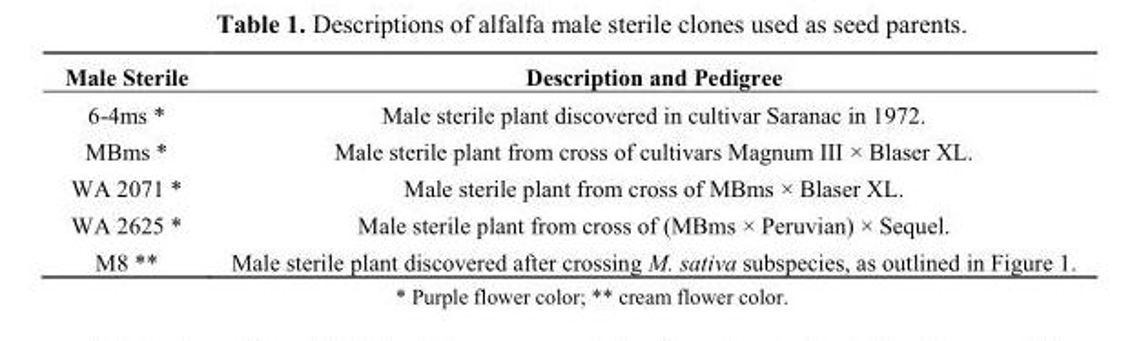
<table><thead><tr><td>Male Sterile</td><td>Description and Pedigree</td></tr></thead><tbody><tr><td>6-4ms *</td><td>Male sterile plant discovered in cultivar Saranac in 1972.</td></tr><tr><td>MBms *</td><td>Male sterile plant from cross of cultivars Magnum III × Blaser XL.</td></tr><tr><td>WA 2071 *</td><td>Male sterile plant from cross of MBms × Blaser XL.</td></tr><tr><td>WA 2625 *</td><td>Male sterile plant from cross of (MBms × Peruvian) × Sequel.</td></tr><tr><td>M8 **</td><td>Male sterile plant discovered after crossing M. sativa subspecies, as outlined in Figure 1.</td></tr></tbody></table>